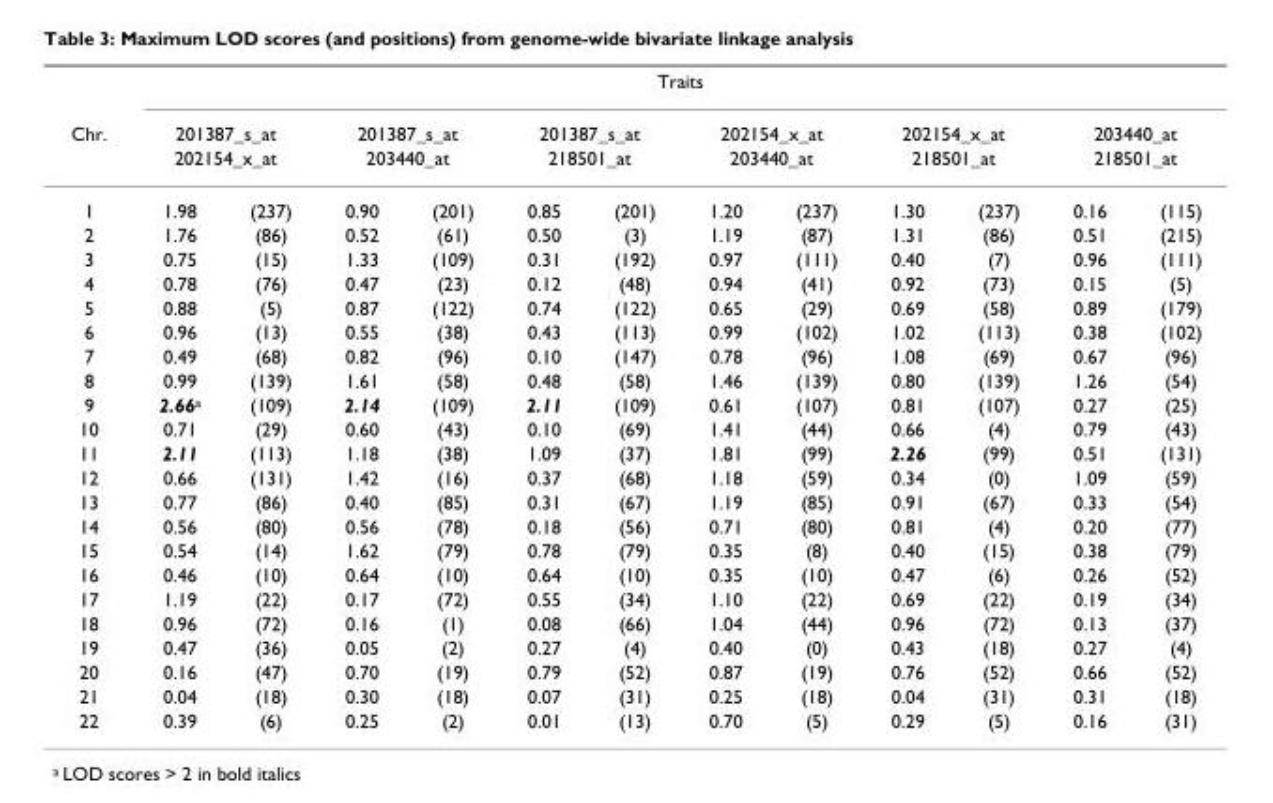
<table><thead><tr><td rowspan="4">Chr. 1</td><td colspan="12">Traits</td></tr><tr><td rowspan="2" colspan="2">201387_s_at 202154_x_at</td><td rowspan="2" colspan="2">201387_s_at 203440_at</td><td rowspan="2" colspan="2">201387_s_at 218501_at</td><td rowspan="2" colspan="2">202154_x_at 203440_at</td><td rowspan="2" colspan="2">202154_x_at 218501_at</td><td rowspan="2" colspan="2">203440_at 218501_at</td></tr><tr></tr><tr><td>1.98</td><td>(237)</td><td>0.90</td><td>(201)</td><td>0.85</td><td>(201)</td><td>1.20</td><td>(237)</td><td>1.30</td><td>(237)</td><td>0.16</td><td>(115)</td></tr></thead><tbody><tr><td>2</td><td>1.76</td><td>(86)</td><td>0.52</td><td>(61)</td><td>0.50</td><td>(3)</td><td>1.19</td><td>(87)</td><td>1.31</td><td>(86)</td><td>0.51</td><td>(215)</td></tr><tr><td>3</td><td>0.75</td><td>(15)</td><td>1.33</td><td>(109)</td><td>0.31</td><td>(192)</td><td>0.97</td><td>(111)</td><td>0.40</td><td>(7)</td><td>0.96</td><td>(111)</td></tr><tr><td>4</td><td>0.78</td><td>(76)</td><td>0.47</td><td>(23)</td><td>0.12</td><td>(48)</td><td>0.94</td><td>(41)</td><td>0.92</td><td>(73)</td><td>0.15</td><td>(5)</td></tr><tr><td>5</td><td>0.88</td><td>(5)</td><td>0.87</td><td>(122)</td><td>0.74</td><td>(122)</td><td>0.65</td><td>(29)</td><td>0.69</td><td>(58)</td><td>0.89</td><td>(179)</td></tr><tr><td>6</td><td>0.96</td><td>(13)</td><td>0.55</td><td>(38)</td><td>0.43</td><td>(113)</td><td>0.99</td><td>(102)</td><td>1.02</td><td>(113)</td><td>0.38</td><td>(102)</td></tr><tr><td>7</td><td>0.49</td><td>(68)</td><td>0.82</td><td>(96)</td><td>0.10</td><td>(147)</td><td>0.78</td><td>(96)</td><td>1.08</td><td>(69)</td><td>0.67</td><td>(96)</td></tr><tr><td>8</td><td>0.99</td><td>(139)</td><td>1.61</td><td>(58)</td><td>0.48</td><td>(58)</td><td>1.46</td><td>(139)</td><td>0.80</td><td>(139)</td><td>1.26</td><td>(54)</td></tr><tr><td>9</td><td>2.66<sup>a</sup></td><td>(109)</td><td>2.14</td><td>(109)</td><td>2.11</td><td>(109)</td><td>0.61</td><td>(107)</td><td>0.81</td><td>(107)</td><td>0.27</td><td>(25)</td></tr><tr><td>10</td><td>0.71</td><td>(29)</td><td>0.60</td><td>(43)</td><td>0.10</td><td>(69)</td><td>1.41</td><td>(44)</td><td>0.66</td><td>(4)</td><td>0.79</td><td>(43)</td></tr><tr><td>11</td><td>2.11</td><td>(113)</td><td>1.18</td><td>(38)</td><td>1.09</td><td>(37)</td><td>1.81</td><td>(99)</td><td>2.26</td><td>(99)</td><td>0.51</td><td>(131)</td></tr><tr><td>12</td><td>0.66</td><td>(131)</td><td>1.42</td><td>(16)</td><td>0.37</td><td>(68)</td><td>1.18</td><td>(59)</td><td>0.34</td><td>(0)</td><td>1.09</td><td>(59)</td></tr><tr><td>13</td><td>0.77</td><td>(86)</td><td>0.40</td><td>(85)</td><td>0.31</td><td>(67)</td><td>1.19</td><td>(85)</td><td>0.91</td><td>(67)</td><td>0.33</td><td>(54)</td></tr><tr><td>14</td><td>0.56</td><td>(80)</td><td>0.56</td><td>(78)</td><td>0.18</td><td>(56)</td><td>0.71</td><td>(80)</td><td>0.81</td><td>(4)</td><td>0.20</td><td>(77)</td></tr><tr><td>15</td><td>0.54</td><td>(14)</td><td>1.62</td><td>(79)</td><td>0.78</td><td>(79)</td><td>0.35</td><td>(8)</td><td>0.40</td><td>(15)</td><td>0.38</td><td>(79)</td></tr><tr><td>16</td><td>0.46</td><td>(10)</td><td>0.64</td><td>(10)</td><td>0.64</td><td>(10)</td><td>0.35</td><td>(10)</td><td>0.47</td><td>(6)</td><td>0.26</td><td>(52)</td></tr><tr><td>17</td><td>1.19</td><td>(22)</td><td>0.17</td><td>(72)</td><td>0.55</td><td>(34)</td><td>1.10</td><td>(22)</td><td>0.69</td><td>(22)</td><td>0.19</td><td>(34)</td></tr><tr><td>18</td><td>0.96</td><td>(72)</td><td>0.16</td><td>(1)</td><td>0.08</td><td>(66)</td><td>1.04</td><td>(44)</td><td>0.96</td><td>(72)</td><td>0.13</td><td>(37)</td></tr><tr><td>19</td><td>0.47</td><td>(36)</td><td>0.05</td><td>(2)</td><td>0.27</td><td>(4)</td><td>0.40</td><td>(0)</td><td>0.43</td><td>(18)</td><td>0.27</td><td>(4)</td></tr><tr><td>20</td><td>0.16</td><td>(47)</td><td>0.70</td><td>(19)</td><td>0.79</td><td>(52)</td><td>0.87</td><td>(19)</td><td>0.76</td><td>(52)</td><td>0.66</td><td>(52)</td></tr><tr><td>21</td><td>0.04</td><td>(18)</td><td>0.30</td><td>(18)</td><td>0.07</td><td>(31)</td><td>0.25</td><td>(18)</td><td>0.04</td><td>(31)</td><td>0.31</td><td>(18)</td></tr><tr><td>22</td><td>0.39</td><td>(6)</td><td>0.25</td><td>(2)</td><td>0.01</td><td>(13)</td><td>0.70</td><td>(5)</td><td>0.29</td><td>(5)</td><td>0.16</td><td>(31)</td></tr></tbody></table>